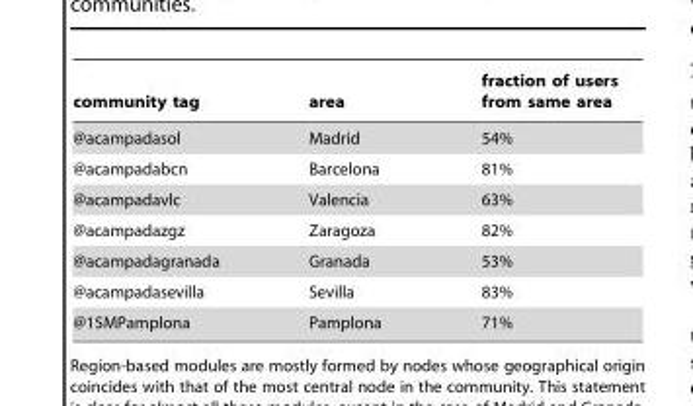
<table><thead><tr><td>community tag</td><td>area</td><td>fraction of users from same area</td></tr></thead><tbody><tr><td>@acampadasol</td><td>Madrid</td><td>54%</td></tr><tr><td>@acampadabcn</td><td>Barcelona</td><td>81%</td></tr><tr><td>@acampadavlc</td><td>Valencia</td><td>63%</td></tr><tr><td>@acampadazgz</td><td>Zaragoza</td><td>82%</td></tr><tr><td>@acampadagranada</td><td>Granada</td><td>53%</td></tr><tr><td>@acampadasevilla</td><td>Sevilla</td><td>83%</td></tr><tr><td>@15MPamplona</td><td>Pamplona</td><td>71%</td></tr></tbody></table>